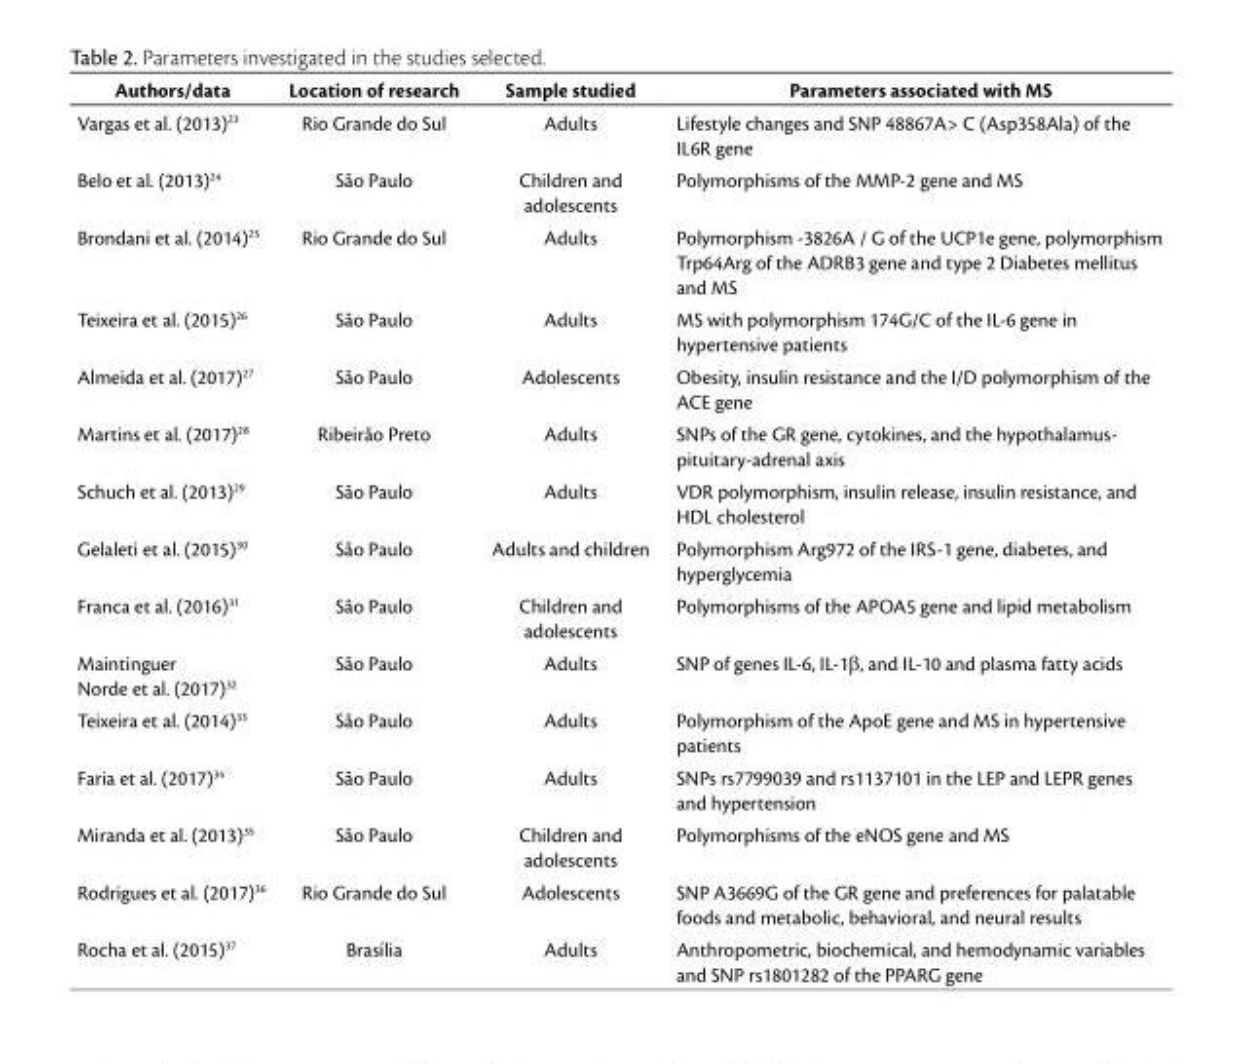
<table><thead><tr><td>Authors/data</td><td>Location of research</td><td>Sample studied</td><td>Parameters associated with MS</td></tr></thead><tbody><tr><td>Vargas et al. (2013)23</td><td>Rio Grande do Sul</td><td>Adults</td><td>Lifestyle changes and SNP 48867A&gt; C (Asp358Ala) of the IL6R gene</td></tr><tr><td>Belo et al. (2013)24</td><td>São Paulo</td><td>Children and adolescents</td><td>Polymorphisms of the MMP-2 gene and MS</td></tr><tr><td>Brondani et al. (2014)25</td><td>Rio Grande do Sul</td><td>Adults</td><td>Polymorphism -3826A / G of the UCP1e gene, polymorphism Trp64Arg of the ADRB3 gene and type 2 Diabetes mellitus and MS</td></tr><tr><td>Teixeira et al. (2015)26</td><td>São Paulo</td><td>Adults</td><td>MS with polymorphism 174G/C of the IL-6 gene in hypertensive patients</td></tr><tr><td>Almeida et al. (2017)27</td><td>São Paulo</td><td>Adolescents</td><td>Obesity, insulin resistance and the I/D polymorphism of the ACE gene</td></tr><tr><td>Martins et al. (2017)28</td><td>Ribeirão Preto</td><td>Adults</td><td>SNPs of the GR gene, cytokines, and the hypothalamus- pituitary-adrenal axis</td></tr><tr><td>Schuch et al. (2013)29</td><td>São Paulo</td><td>Adults</td><td>VDR polymorphism, insulin release, insulin resistance, and HDL cholesterol</td></tr><tr><td>Gelaleti et al. (2015)30</td><td>São Paulo</td><td>Adults and children</td><td>Polymorphism Arg972 of the IRS-1 gene, diabetes, and hyperglycemia</td></tr><tr><td>Franca et al. (2016)31</td><td>São Paulo</td><td>Children and adolescents</td><td>Polymorphisms of the APOA5 gene and lipid metabolism</td></tr><tr><td>Maintinguer Norde et al. (2017)32</td><td>São Paulo</td><td>Adults</td><td>SNP of genes IL-6, IL-1β, and IL-10 and plasma fatty acids</td></tr><tr><td>Teixeira et al. (2014)33</td><td>São Paulo</td><td>Adults</td><td>Polymorphism of the ApoE gene and MS in hypertensive patients</td></tr><tr><td>Faria et al. (2017)34</td><td>São Paulo</td><td>Adults</td><td>SNPs rs7799039 and rs1137101 in the LEP and LEPR genes and hypertension</td></tr><tr><td>Miranda et al. (2013)35</td><td>São Paulo</td><td>Children and adolescents</td><td>Polymorphisms of the eNOS gene and MS</td></tr><tr><td>Rodrigues et al. (2017)36</td><td>Rio Grande do Sul</td><td>Adolescents</td><td>SNP A3669G of the GR gene and preferences for palatable foods and metabolic, behavioral, and neural results</td></tr><tr><td>Rocha et al. (2015)37</td><td>Brasília</td><td>Adults</td><td>Anthropometric, biochemical, and hemodynamic variables and SNP rs1801282 of the PPARG gene</td></tr></tbody></table>